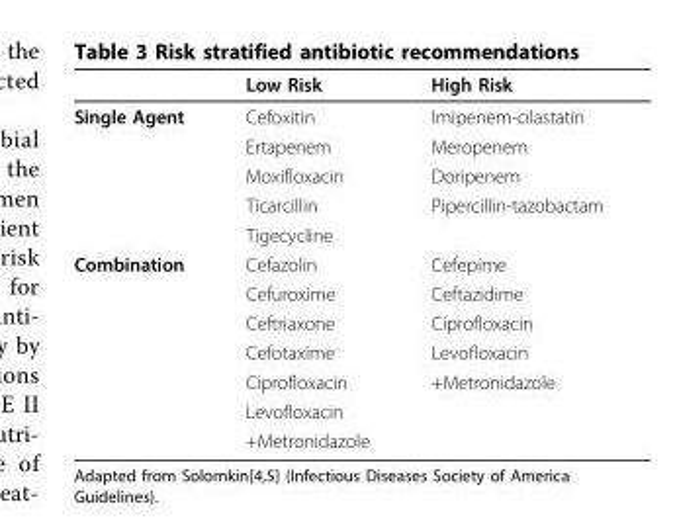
<table><thead><tr><td></td><td>Low Risk</td><td>High Risk</td></tr></thead><tbody><tr><td rowspan="5">Single Agent</td><td>Cefoxitin</td><td>Imipenem-cilastatin</td></tr><tr><td>Ertapenem</td><td>Meropenem</td></tr><tr><td>Moxifloxacin</td><td>Doripenem</td></tr><tr><td>Ticarcillin</td><td>Pipercillin-tazobactam</td></tr><tr><td>Tigecycline</td><td></td></tr><tr><td rowspan="7">Combination</td><td>Cefazolin</td><td>Cefepime</td></tr><tr><td>Cefuroxime</td><td>Ceftazidime</td></tr><tr><td>Ceftriaxone</td><td>Ciprofloxacin</td></tr><tr><td>Cefotaxime</td><td>Levofloxacin</td></tr><tr><td>Ciprofloxacin</td><td>+Metronidazole</td></tr><tr><td>Levofloxacin</td><td></td></tr><tr><td>+Metronidazole</td><td></td></tr></tbody></table>